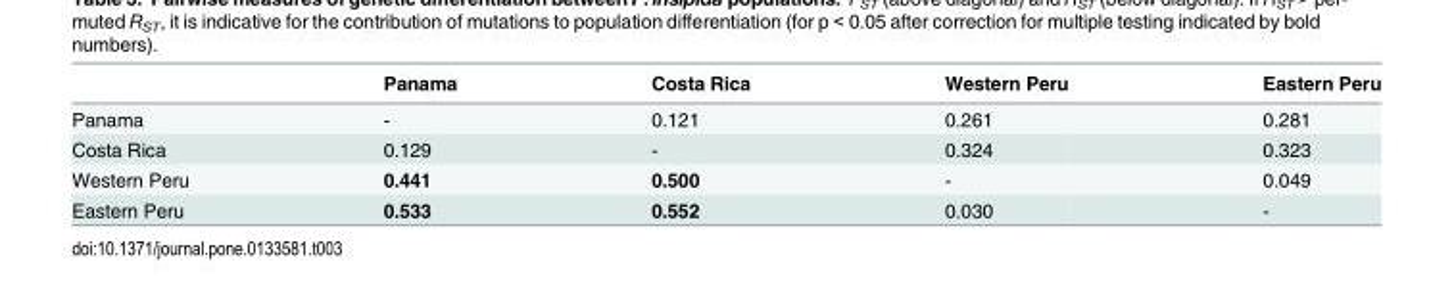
<table><thead><tr><td></td><td>Panama</td><td>Costa Rica</td><td>Western Peru</td><td>Eastern Peru</td></tr></thead><tbody><tr><td>Panama</td><td>-</td><td>0.121</td><td>0.261</td><td>0.281</td></tr><tr><td>Costa Rica</td><td>0.129</td><td>-</td><td>0.324</td><td>0.323</td></tr><tr><td>Western Peru</td><td>0.441</td><td>0.500</td><td>-</td><td>0.049</td></tr><tr><td>Eastern Peru</td><td>0.533</td><td>0.552</td><td>0.030</td><td>-</td></tr></tbody></table>